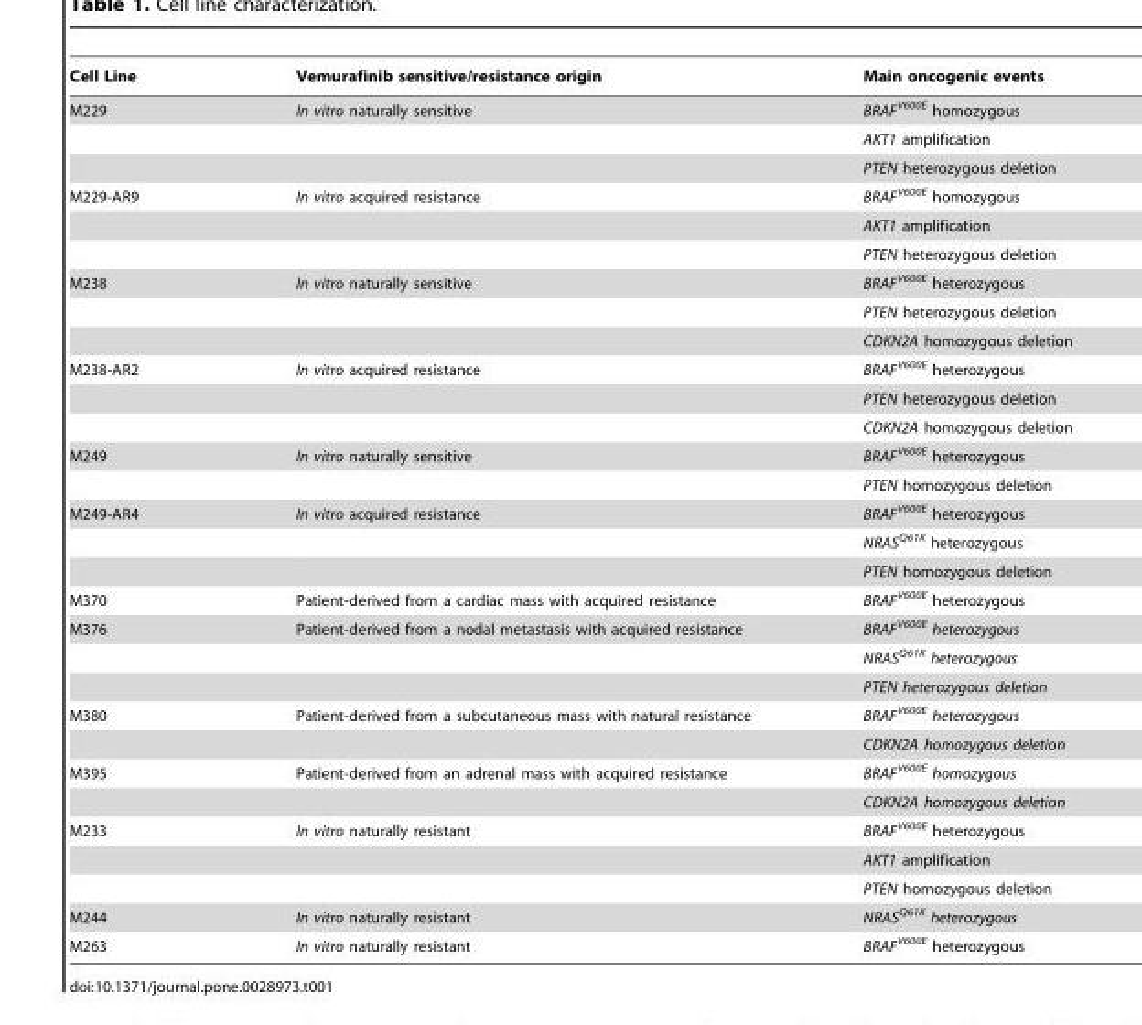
<table><thead><tr><td>Cell Line</td><td>Vemurafinib sensitive/resistance origin</td><td>Main oncogenic events</td></tr></thead><tbody><tr><td rowspan="3">M229</td><td>In vitro naturally sensitive</td><td>BRAF<sup>V600E</sup> homozygous</td></tr><tr><td></td><td>AKT1 amplification</td></tr><tr><td></td><td>PTEN heterozygous deletion</td></tr><tr><td rowspan="3">M229-AR9</td><td>In vitro acquired resistance</td><td>BRAF<sup>V600E</sup> homozygous</td></tr><tr><td></td><td>AKT1 amplification</td></tr><tr><td></td><td>PTEN heterozygous deletion</td></tr><tr><td rowspan="3">M238</td><td>In vitro naturally sensitive</td><td>BRAF<sup>V600E</sup> heterozygous</td></tr><tr><td></td><td>PTEN heterozygous deletion</td></tr><tr><td></td><td>CDKN2A homozygous deletion</td></tr><tr><td rowspan="3">M238-AR2</td><td>In vitro acquired resistance</td><td>BRAF<sup>V600E</sup> heterozygous</td></tr><tr><td></td><td>PTEN heterozygous deletion</td></tr><tr><td></td><td>CDKN2A homozygous deletion</td></tr><tr><td rowspan="2">M249</td><td>In vitro naturally sensitive</td><td>BRAF<sup>V600E</sup> heterozygous</td></tr><tr><td></td><td>PTEN homozygous deletion</td></tr><tr><td rowspan="3">M249-AR4</td><td>In vitro acquired resistance</td><td>BRAF<sup>V600E</sup> heterozygous</td></tr><tr><td></td><td>NRAS<sup>Q61K</sup> heterozygous</td></tr><tr><td></td><td>PTEN homozygous deletion</td></tr><tr><td>M370</td><td>Patient-derived from a cardiac mass with acquired resistance</td><td>BRAF<sup>V600E</sup> heterozygous</td></tr><tr><td rowspan="3">M376</td><td>Patient-derived from a nodal metastasis with acquired resistance</td><td>BRAF<sup>V600E</sup> heterozygous</td></tr><tr><td></td><td>NRAS<sup>Q61K</sup> heterozygous</td></tr><tr><td></td><td>PTEN heterozygous deletion</td></tr><tr><td rowspan="2">M380</td><td>Patient-derived from a subcutaneous mass with natural resistance</td><td>BRAF<sup>V600E</sup> heterozygous</td></tr><tr><td></td><td>CDKN2A homozygous deletion</td></tr><tr><td rowspan="2">M395</td><td>Patient-derived from an adrenal mass with acquired resistance</td><td>BRAF<sup>V600E</sup> homozygous</td></tr><tr><td></td><td>CDKN2A homozygous deletion</td></tr><tr><td rowspan="3">M233</td><td>In vitro naturally resistant</td><td>BRAF<sup>V600E</sup> heterozygous</td></tr><tr><td></td><td>AKT1 amplification</td></tr><tr><td></td><td>PTEN homozygous deletion</td></tr><tr><td>M244</td><td>In vitro naturally resistant</td><td>NRAS<sup>Q61K</sup> heterozygous</td></tr><tr><td>M263</td><td>In vitro naturally resistant</td><td>BRAF<sup>V600E</sup> heterozygous</td></tr></tbody></table>